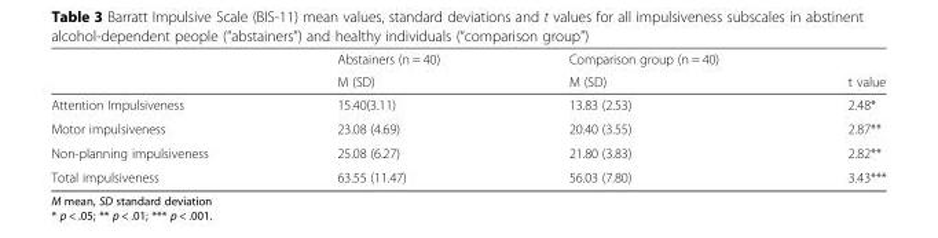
<table><thead><tr><td rowspan="2"></td><td rowspan="2">Abstainers (n = 40) M (SD)</td><td rowspan="2">Comparison group (n = 40) M (SD)</td><td rowspan="2">t value</td></tr><tr></tr></thead><tbody><tr><td>Attention Impulsiveness</td><td>15.40(3.11)</td><td>13.83 (2.53)</td><td>2.48*</td></tr><tr><td>Motor impulsiveness</td><td>23.08 (4.69)</td><td>20.40 (3.55)</td><td>2.87**</td></tr><tr><td>Non-planning impulsiveness</td><td>25.08 (6.27)</td><td>21.80 (3.83)</td><td>2.82**</td></tr><tr><td>Total impulsiveness</td><td>63.55 (11.47)</td><td>56.03 (7.80)</td><td>3.43***</td></tr></tbody></table>